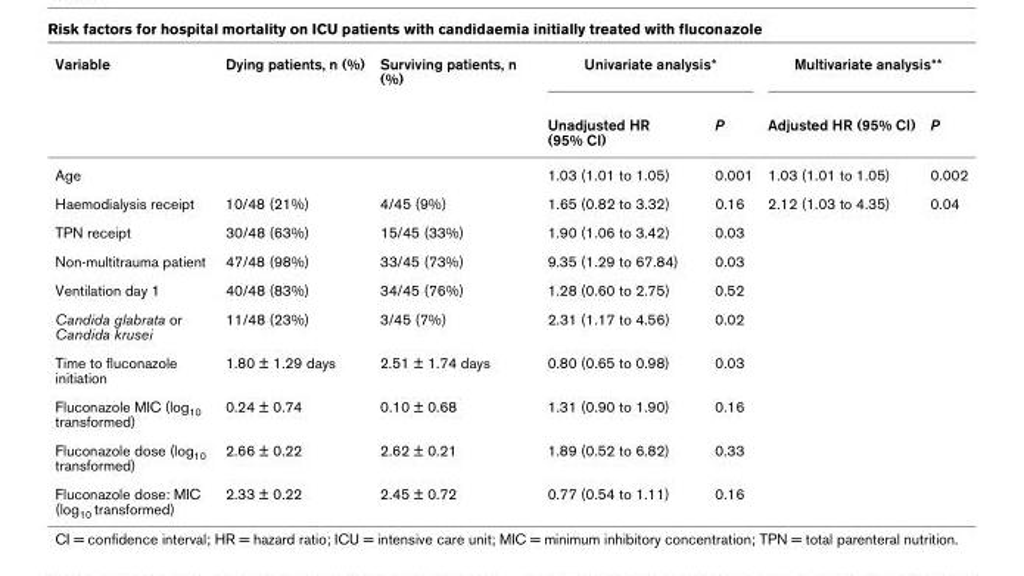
<table><thead><tr><td rowspan="2">Variable</td><td rowspan="2">Dying patients, n (%)</td><td rowspan="2">Surviving patients, n (%)</td><td colspan="2">Univariate analysis*</td><td colspan="2">Multivariate analysis**</td></tr><tr><td>Unadjusted HR (95% CI)</td><td>P</td><td>Adjusted HR (95% CI)</td><td>P</td></tr></thead><tbody><tr><td>Age</td><td></td><td></td><td>1.03 (1.01 to 1.05)</td><td>0.001</td><td>1.03 (1.01 to 1.05)</td><td>0.002</td></tr><tr><td>Haemodialysis receipt</td><td>10/48 (21%)</td><td>4/45 (9%)</td><td>1.65 (0.82 to 3.32)</td><td>0.16</td><td>2.12 (1.03 to 4.35)</td><td>0.04</td></tr><tr><td>TPN receipt</td><td>30/48 (63%)</td><td>15/45 (33%)</td><td>1.90 (1.06 to 3.42)</td><td>0.03</td><td></td><td></td></tr><tr><td>Non-multitrauma patient</td><td>47/48 (98%)</td><td>33/45 (73%)</td><td>9.35 (1.29 to 67.84)</td><td>0.03</td><td></td><td></td></tr><tr><td>Ventilation day 1</td><td>40/48 (83%)</td><td>34/45 (76%)</td><td>1.28 (0.60 to 2.75)</td><td>0.52</td><td></td><td></td></tr><tr><td>Candida glabrata or Candida krusei</td><td>11/48 (23%)</td><td>3/45 (7%)</td><td>2.31 (1.17 to 4.56)</td><td>0.02</td><td></td><td></td></tr><tr><td>Time to fluconazole initiation</td><td>1.80 ± 1.29 days</td><td>2.51 ± 1.74 days</td><td>0.80 (0.65 to 0.98)</td><td>0.03</td><td></td><td></td></tr><tr><td>Fluconazole MIC (log<sub>10</sub> transformed)</td><td>0.24 ± 0.74</td><td>0.10 ± 0.68</td><td>1.31 (0.90 to 1.90)</td><td>0.16</td><td></td><td></td></tr><tr><td>Fluconazole dose (log<sub>10</sub> transformed)</td><td>2.66 ± 0.22</td><td>2.62 ± 0.21</td><td>1.89 (0.52 to 6.82)</td><td>0.33</td><td></td><td></td></tr><tr><td>Fluconazole dose: MIC (log<sub>10</sub> transformed)</td><td>2.33 ± 0.22</td><td>2.45 ± 0.72</td><td>0.77 (0.54 to 1.11)</td><td>0.16</td><td></td><td></td></tr></tbody></table>